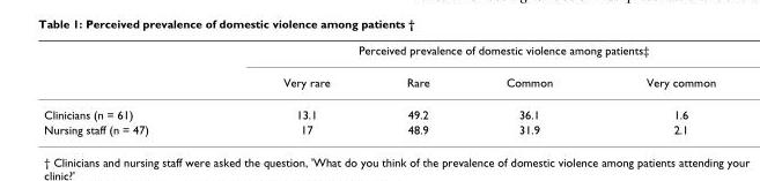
<table><thead><tr><td rowspan="2"></td><td colspan="4">Perceived prevalence of domestic violence among patients‡</td></tr><tr><td>Very rare</td><td>Rare</td><td>Common</td><td>Very common</td></tr></thead><tbody><tr><td>Clinicians (n = 61)</td><td>13.1</td><td>49.2</td><td>36.1</td><td>1.6</td></tr><tr><td>Nursing staff (n = 47)</td><td>17</td><td>48.9</td><td>31.9</td><td>2.1</td></tr></tbody></table>